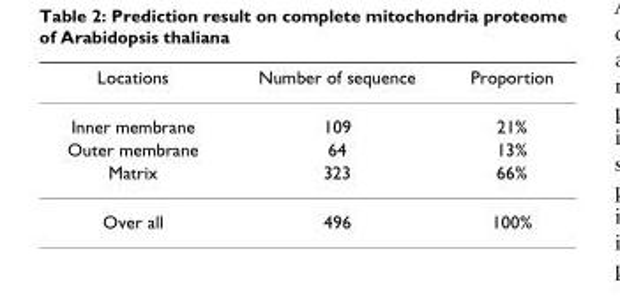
<table><thead><tr><td>Locations</td><td>Number of sequence</td><td>Proportion</td></tr></thead><tbody><tr><td>Inner membrane</td><td>109</td><td>21%</td></tr><tr><td>Outer membrane</td><td>64</td><td>13%</td></tr><tr><td>Matrix</td><td>323</td><td>66%</td></tr><tr><td>Over all</td><td>496</td><td>100%</td></tr></tbody></table>